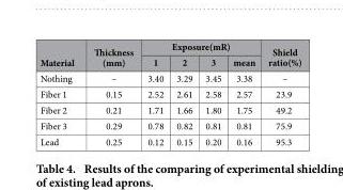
<table><thead><tr><td rowspan="2">Material</td><td rowspan="2">Thickness (mm)</td><td colspan="4">Exposure(mR)</td><td rowspan="2">Shield ratio(%)</td></tr><tr><td>1</td><td>2</td><td>3</td><td>mean</td></tr></thead><tbody><tr><td>Nothing</td><td>–</td><td>3.40</td><td>3.29</td><td>3.45</td><td>3.38</td><td>–</td></tr><tr><td>Fiber 1</td><td>0.15</td><td>2.52</td><td>2.61</td><td>2.58</td><td>2.57</td><td>23.9</td></tr><tr><td>Fiber 2</td><td>0.21</td><td>1.71</td><td>1.66</td><td>1.80</td><td>1.75</td><td>49.2</td></tr><tr><td>Fiber 3</td><td>0.29</td><td>0.78</td><td>0.82</td><td>0.81</td><td>0.81</td><td>75.9</td></tr><tr><td>Lead</td><td>0.25</td><td>0.12</td><td>0.15</td><td>0.20</td><td>0.16</td><td>95.3</td></tr></tbody></table>